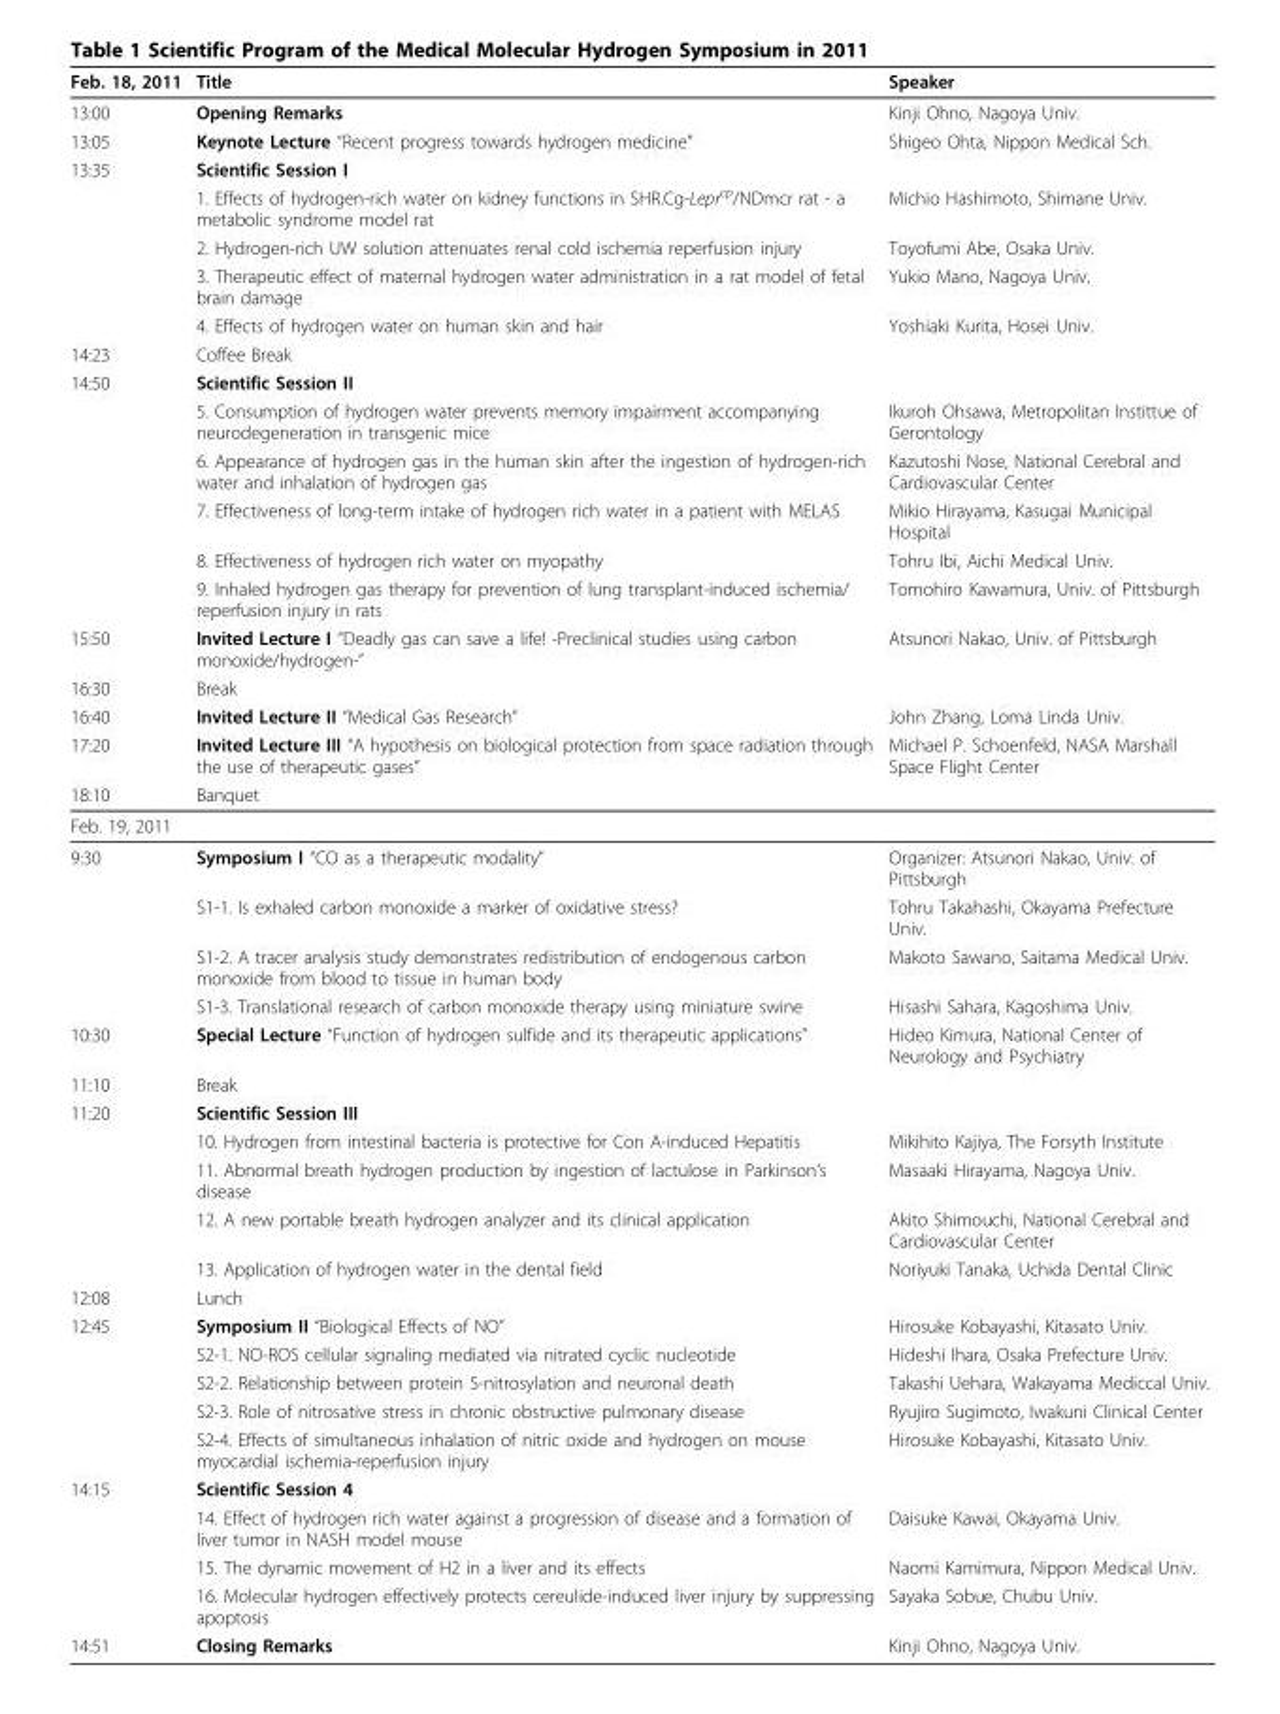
<table><thead><tr><td>Feb. 18, 2011</td><td>Title</td><td>Speaker</td></tr></thead><tbody><tr><td>13:00</td><td>Opening Remarks</td><td>Kinji Ohno, Nagoya Univ.</td></tr><tr><td>13:05</td><td>Keynote Lecture “Recent progress towards hydrogen medicine”</td><td>Shigeo Ohta, Nippon Medical Sch.</td></tr><tr><td rowspan="5">13:35</td><td>Scientific Session I</td><td></td></tr><tr><td>1. Effects of hydrogen-rich water on kidney functions in SHR.Cg-Lepr<sup>cp</sup>/NDmcr rat - a metabolic syndrome model rat</td><td>Michio Hashimoto, Shimane Univ.</td></tr><tr><td>2. Hydrogen-rich UW solution attenuates renal cold ischemia reperfusion injury</td><td>Toyofumi Abe, Osaka Univ.</td></tr><tr><td>3. Therapeutic effect of maternal hydrogen water administration in a rat model of fetal brain damage</td><td>Yukio Mano, Nagoya Univ.</td></tr><tr><td>4. Effects of hydrogen water on human skin and hair</td><td>Yoshiaki Kurita, Hosei Univ.</td></tr><tr><td>14:23</td><td>Coffee Break</td><td></td></tr><tr><td rowspan="6">14:50</td><td>Scientific Session II</td><td></td></tr><tr><td>5. Consumption of hydrogen water prevents memory impairment accompanying neurodegeneration in transgenic mice</td><td>Ikuroh Ohsawa, Metropolitan Instittue of Gerontology</td></tr><tr><td>6. Appearance of hydrogen gas in the human skin after the ingestion of hydrogen-rich water and inhalation of hydrogen gas</td><td>Kazutoshi Nose, National Cerebral and Cardiovascular Center</td></tr><tr><td>7. Effectiveness of long-term intake of hydrogen rich water in a patient with MELAS</td><td>Mikio Hirayama, Kasugai Municipal Hospital</td></tr><tr><td>8. Effectiveness of hydrogen rich water on myopathy</td><td>Tohru Ibi, Aichi Medical Univ.</td></tr><tr><td>9. Inhaled hydrogen gas therapy for prevention of lung transplant-induced ischemia/ reperfusion injury in rats</td><td>Tomohiro Kawamura, Univ. of Pittsburgh</td></tr><tr><td>15:50</td><td>Invited Lecture I “Deadly gas can save a life! -Preclinical studies using carbon monoxide/hydrogen-”</td><td>Atsunori Nakao, Univ. of Pittsburgh</td></tr><tr><td>16:30</td><td>Break</td><td></td></tr><tr><td>16:40</td><td>Invited Lecture II “Medical Gas Research”</td><td>John Zhang, Loma Linda Univ.</td></tr><tr><td>17:20</td><td>Invited Lecture III “A hypothesis on biological protection from space radiation through the use of therapeutic gases”</td><td>Michael P. Schoenfeld, NASA Marshall Space Flight Center</td></tr><tr><td>18:10</td><td>Banquet</td><td></td></tr><tr><td colspan="3">Feb. 19, 2011</td></tr><tr><td rowspan="4">9:30</td><td>Symposium I “CO as a therapeutic modality”</td><td>Organizer: Atsunori Nakao, Univ. of Pittsburgh</td></tr><tr><td>S1-1. Is exhaled carbon monoxide a marker of oxidative stress?</td><td>Tohru Takahashi, Okayama Prefecture Univ.</td></tr><tr><td>S1-2. A tracer analysis study demonstrates redistribution of endogenous carbon monoxide from blood to tissue in human body</td><td>Makoto Sawano, Saitama Medical Univ.</td></tr><tr><td>S1-3. Translational research of carbon monoxide therapy using miniature swine</td><td>Hisashi Sahara, Kagoshima Univ.</td></tr><tr><td>10:30</td><td>Special Lecture “Function of hydrogen sulfide and its therapeutic applications”</td><td>Hideo Kimura, National Center of Neurology and Psychiatry</td></tr><tr><td>11:10</td><td>Break</td><td></td></tr><tr><td rowspan="5">11:20</td><td>Scientific Session III</td><td></td></tr><tr><td>10. Hydrogen from intestinal bacteria is protective for Con A-induced Hepatitis</td><td>Mikihito Kajiya, The Forsyth Institute</td></tr><tr><td>11. Abnormal breath hydrogen production by ingestion of lactulose in Parkinson’s disease</td><td>Masaaki Hirayama, Nagoya Univ.</td></tr><tr><td>12. A new portable breath hydrogen analyzer and its clinical application</td><td>Akito Shimouchi, National Cerebral and Cardiovascular Center</td></tr><tr><td>13. Application of hydrogen water in the dental field</td><td>Noriyuki Tanaka, Uchida Dental Clinic</td></tr><tr><td>12:08</td><td>Lunch</td><td></td></tr><tr><td rowspan="5">12:45</td><td>Symposium II “Biological Effects of NO”</td><td>Hirosuke Kobayashi, Kitasato Univ.</td></tr><tr><td>S2-1. NO-ROS cellular signaling mediated via nitrated cyclic nucleotide</td><td>Hideshi Ihara, Osaka Prefecture Univ.</td></tr><tr><td>S2-2. Relationship between protein S-nitrosylation and neuronal death</td><td>Takashi Uehara, Wakayama Mediccal Univ.</td></tr><tr><td>S2-3. Role of nitrosative stress in chronic obstructive pulmonary disease</td><td>Ryujiro Sugimoto, Iwakuni Clinical Center</td></tr><tr><td>S2-4. Effects of simultaneous inhalation of nitric oxide and hydrogen on mouse myocardial ischemia-reperfusion injury</td><td>Hirosuke Kobayashi, Kitasato Univ.</td></tr><tr><td rowspan="4">14:15</td><td>Scientific Session 4</td><td></td></tr><tr><td>14. Effect of hydrogen rich water against a progression of disease and a formation of liver tumor in NASH model mouse</td><td>Daisuke Kawai, Okayama Univ.</td></tr><tr><td>15. The dynamic movement of H2 in a liver and its effects</td><td>Naomi Kamimura, Nippon Medical Univ.</td></tr><tr><td>16. Molecular hydrogen effectively protects cereulide-induced liver injury by suppressing apoptosis</td><td>Sayaka Sobue, Chubu Univ.</td></tr><tr><td>14:51</td><td>Closing Remarks</td><td>Kinji Ohno, Nagoya Univ.</td></tr></tbody></table>